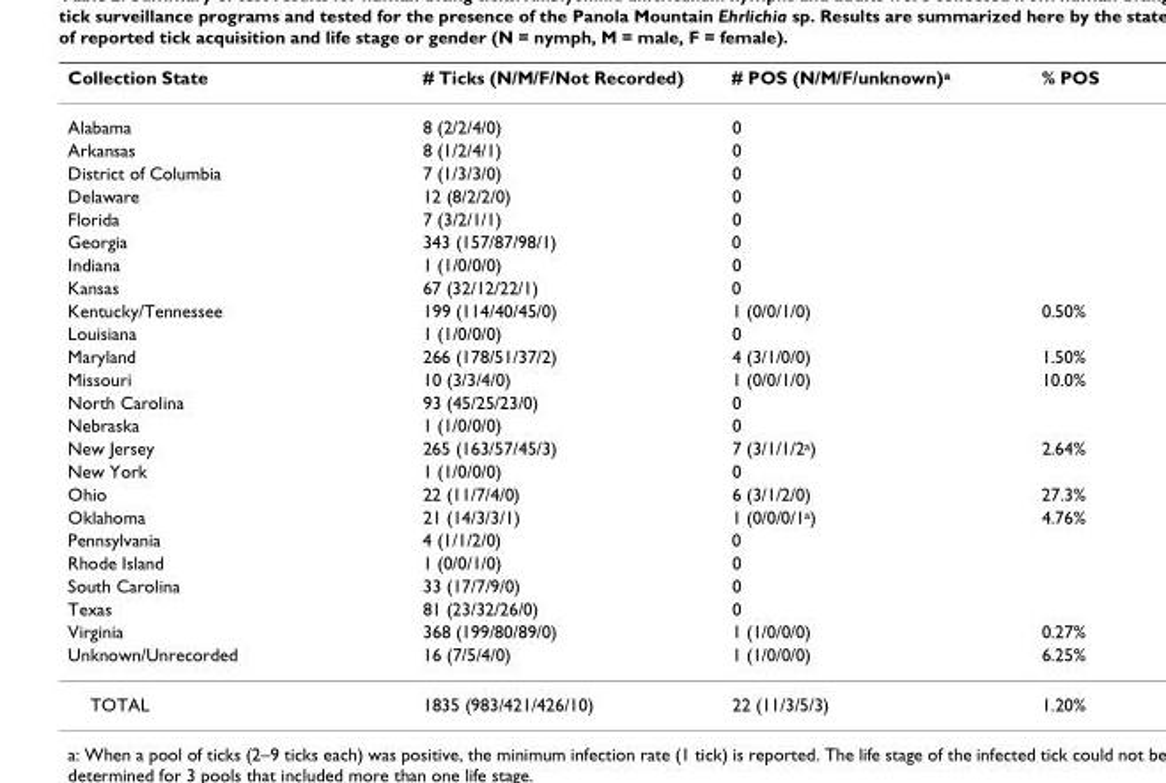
<table><thead><tr><td>Collection State</td><td># Ticks (N/M/F/Not Recorded)</td><td># POS (N/M/F/unknown)<sup>a</sup></td><td>% POS</td></tr></thead><tbody><tr><td>Alabama</td><td>8 (2/2/4/0)</td><td>0</td><td></td></tr><tr><td>Arkansas</td><td>8 (1/2/4/1)</td><td>0</td><td></td></tr><tr><td>District of Columbia</td><td>7 (1/3/3/0)</td><td>0</td><td></td></tr><tr><td>Delaware</td><td>12 (8/2/2/0)</td><td>0</td><td></td></tr><tr><td>Florida</td><td>7 (3/2/1/1)</td><td>0</td><td></td></tr><tr><td>Georgia</td><td>343 (157/87/98/1)</td><td>0</td><td></td></tr><tr><td>Indiana</td><td>1 (1/0/0/0)</td><td>0</td><td></td></tr><tr><td>Kansas</td><td>67 (32/12/22/1)</td><td>0</td><td></td></tr><tr><td>Kentucky/Tennessee</td><td>199 (114/40/45/0)</td><td>1 (0/0/1/0)</td><td>0.50%</td></tr><tr><td>Louisiana</td><td>1 (1/0/0/0)</td><td>0</td><td></td></tr><tr><td>Maryland</td><td>266 (178/51/37/2)</td><td>4 (3/1/0/0)</td><td>1.50%</td></tr><tr><td>Missouri</td><td>10 (3/3/4/0)</td><td>1 (0/0/1/0)</td><td>10.0%</td></tr><tr><td>North Carolina</td><td>93 (45/25/23/0)</td><td>0</td><td></td></tr><tr><td>Nebraska</td><td>1 (1/0/0/0)</td><td>0</td><td></td></tr><tr><td>New Jersey</td><td>265 (163/57/45/3)</td><td>7 (3/1/1/2<sup>a</sup>)</td><td>2.64%</td></tr><tr><td>New York</td><td>1 (1/0/0/0)</td><td>0</td><td></td></tr><tr><td>Ohio</td><td>22 (11/7/4/0)</td><td>6 (3/1/2/0)</td><td>27.3%</td></tr><tr><td>Oklahoma</td><td>21 (14/3/3/1)</td><td>1 (0/0/0/1<sup>a</sup>)</td><td>4.76%</td></tr><tr><td>Pennsylvania</td><td>4 (1/1/2/0)</td><td>0</td><td></td></tr><tr><td>Rhode Island</td><td>1 (0/0/1/0)</td><td>0</td><td></td></tr><tr><td>South Carolina</td><td>33 (17/7/9/0)</td><td>0</td><td></td></tr><tr><td>Texas</td><td>81 (23/32/26/0)</td><td>0</td><td></td></tr><tr><td>Virginia</td><td>368 (199/80/89/0)</td><td>1 (1/0/0/0)</td><td>0.27%</td></tr><tr><td>Unknown/Unrecorded</td><td>16 (7/5/4/0)</td><td>1 (1/0/0/0)</td><td>6.25%</td></tr><tr><td>TOTAL</td><td>1835 (983/421/426/10)</td><td>22 (11/3/5/3)</td><td>1.20%</td></tr></tbody></table>